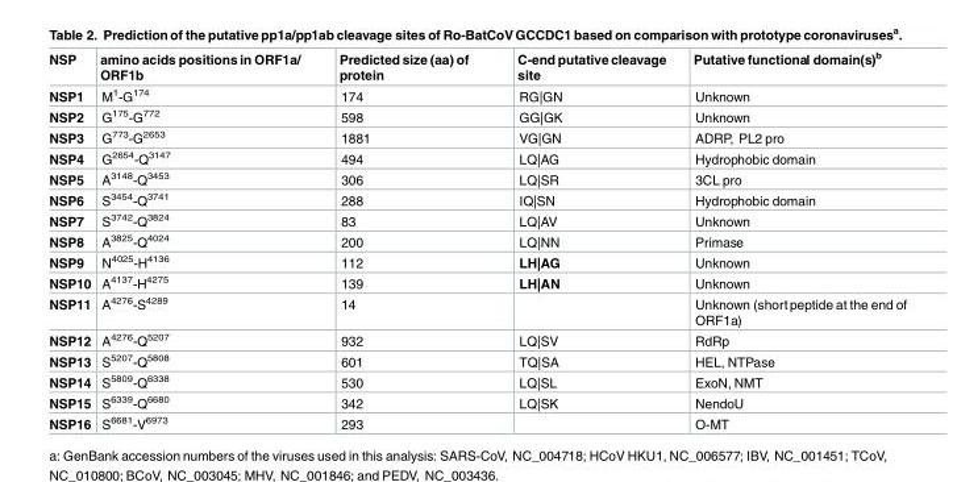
<table><thead><tr><td>NSP</td><td>amino acids positions in ORF1a/ ORF1b</td><td>Predicted size (aa) of protein</td><td>C-end putative cleavage site</td><td>Putative functional domain(s)<sup>b</sup></td></tr></thead><tbody><tr><td>NSP1</td><td>M<sup>1</sup>-G<sup>174</sup></td><td>174</td><td>RG|GN</td><td>Unknown</td></tr><tr><td>NSP2</td><td>G<sup>175</sup>-G<sup>772</sup></td><td>598</td><td>GG|GK</td><td>Unknown</td></tr><tr><td>NSP3</td><td>G<sup>773</sup>-G<sup>2653</sup></td><td>1881</td><td>VG|GN</td><td>ADRP, PL2 pro</td></tr><tr><td>NSP4</td><td>G<sup>2654</sup>-Q<sup>3147</sup></td><td>494</td><td>LQ|AG</td><td>Hydrophobic domain</td></tr><tr><td>NSP5</td><td>A<sup>3148</sup>-Q<sup>3453</sup></td><td>306</td><td>LQ|SR</td><td>3CL pro</td></tr><tr><td>NSP6</td><td>S<sup>3454</sup>-Q<sup>3741</sup></td><td>288</td><td>IQ|SN</td><td>Hydrophobic domain</td></tr><tr><td>NSP7</td><td>S<sup>3742</sup>-Q<sup>3824</sup></td><td>83</td><td>LQ|AV</td><td>Unknown</td></tr><tr><td>NSP8</td><td>A<sup>3825</sup>-Q<sup>4024</sup></td><td>200</td><td>LQ|NN</td><td>Primase</td></tr><tr><td>NSP9</td><td>N<sup>4025</sup>-H<sup>4136</sup></td><td>112</td><td>LH|AG</td><td>Unknown</td></tr><tr><td>NSP10</td><td>A<sup>4137</sup>-H<sup>4275</sup></td><td>139</td><td>LH|AN</td><td>Unknown</td></tr><tr><td>NSP11</td><td>A<sup>4276</sup>-S<sup>4289</sup></td><td>14</td><td></td><td>Unknown (shortpeptide at the end of ORF1a)</td></tr><tr><td>NSP12</td><td>A<sup>4276</sup>-Q<sup>5207</sup></td><td>932</td><td>LQ|SV</td><td>RdRp</td></tr><tr><td>NSP13</td><td>S<sup>5207</sup>-Q<sup>5808</sup></td><td>601</td><td>TQ|SA</td><td>HEL, NTPase</td></tr><tr><td>NSP14</td><td>S<sup>5809</sup>-Q<sup>6338</sup></td><td>530</td><td>LQ|SL</td><td>ExoN, NMT</td></tr><tr><td>NSP15</td><td>S<sup>6339</sup>-Q<sup>6680</sup></td><td>342</td><td>LQ|SK</td><td>NendoU</td></tr><tr><td>NSP16</td><td>S<sup>6681</sup>-V<sup>6973</sup></td><td>293</td><td></td><td>O-MT</td></tr></tbody></table>